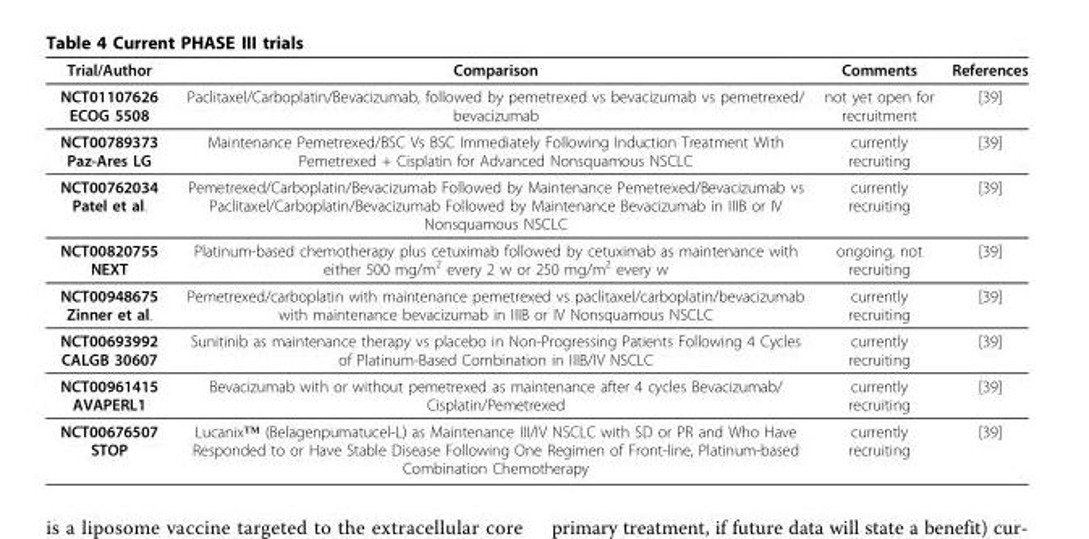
<table><thead><tr><td>Trial/Author</td><td>Comparison</td><td>Comments</td><td>References</td></tr></thead><tbody><tr><td>NCT01107626 ECOG 5508</td><td>Paclitaxel/Carboplatin/Bevacizumab, followed by pemetrexed vs bevacizumab vs pemetrexed/ bevacizumab</td><td>not yet open for recruitment</td><td>[39]</td></tr><tr><td>NCT00789373 Paz-Ares LG</td><td>Maintenance Pemetrexed/BSC Vs BSC Immediately Following Induction Treatment With Pemetrexed + Cisplatin for Advanced Nonsquamous NSCLC</td><td>currently recruiting</td><td>[39]</td></tr><tr><td>NCT00762034 Patel et al.</td><td>Pemetrexed/Carboplatin/Bevacizumab Followed by Maintenance Pemetrexed/Bevacizumab vs Paclitaxel/Carboplatin/Bevacizumab Followed by Maintenance Bevacizumab in IIIB or IV Nonsquamous NSCLC</td><td>currently recruiting</td><td>[39]</td></tr><tr><td>NCT00820755 NEXT</td><td>Platinum-based chemotherapy plus cetuximab followed by cetuximab as maintenance with either 500 mg/m<sup>2</sup> every 2 w or 250 mg/m<sup>2</sup> every w</td><td>ongoing, not recruiting</td><td>[39]</td></tr><tr><td>NCT00948675 Zinner et al.</td><td>Pemetrexed/carboplatin with maintenance pemetrexed vs paclitaxel/carboplatin/bevacizumab with maintenance bevacizumab in IIIB or IV Nonsquamous NSCLC</td><td>currently recruiting</td><td>[39]</td></tr><tr><td>NCT00693992 CALGB 30607</td><td>Sunitinib as maintenance therapy vs placebo in Non-Progressing Patients Following 4 Cycles of Platinum-Based Combination in IIIB/IV NSCLC</td><td>currently recruiting</td><td>[39]</td></tr><tr><td>NCT00961415 AVAPERL1</td><td>Bevacizumab with or without pemetrexed as maintenance after 4 cycles Bevacizumab/ Cisplatin/Pemetrexed</td><td>currently recruiting</td><td>[39]</td></tr><tr><td>NCT00676507 STOP</td><td>Lucanix™ (Belagenpumatucel-L) as Maintenance III/IV NSCLC with SD or PR and Who Have Responded to or Have Stable Disease Following One Regimen of Front-line, Platinum-based Combination Chemotherapy</td><td>currently recruiting</td><td>[39]</td></tr></tbody></table>